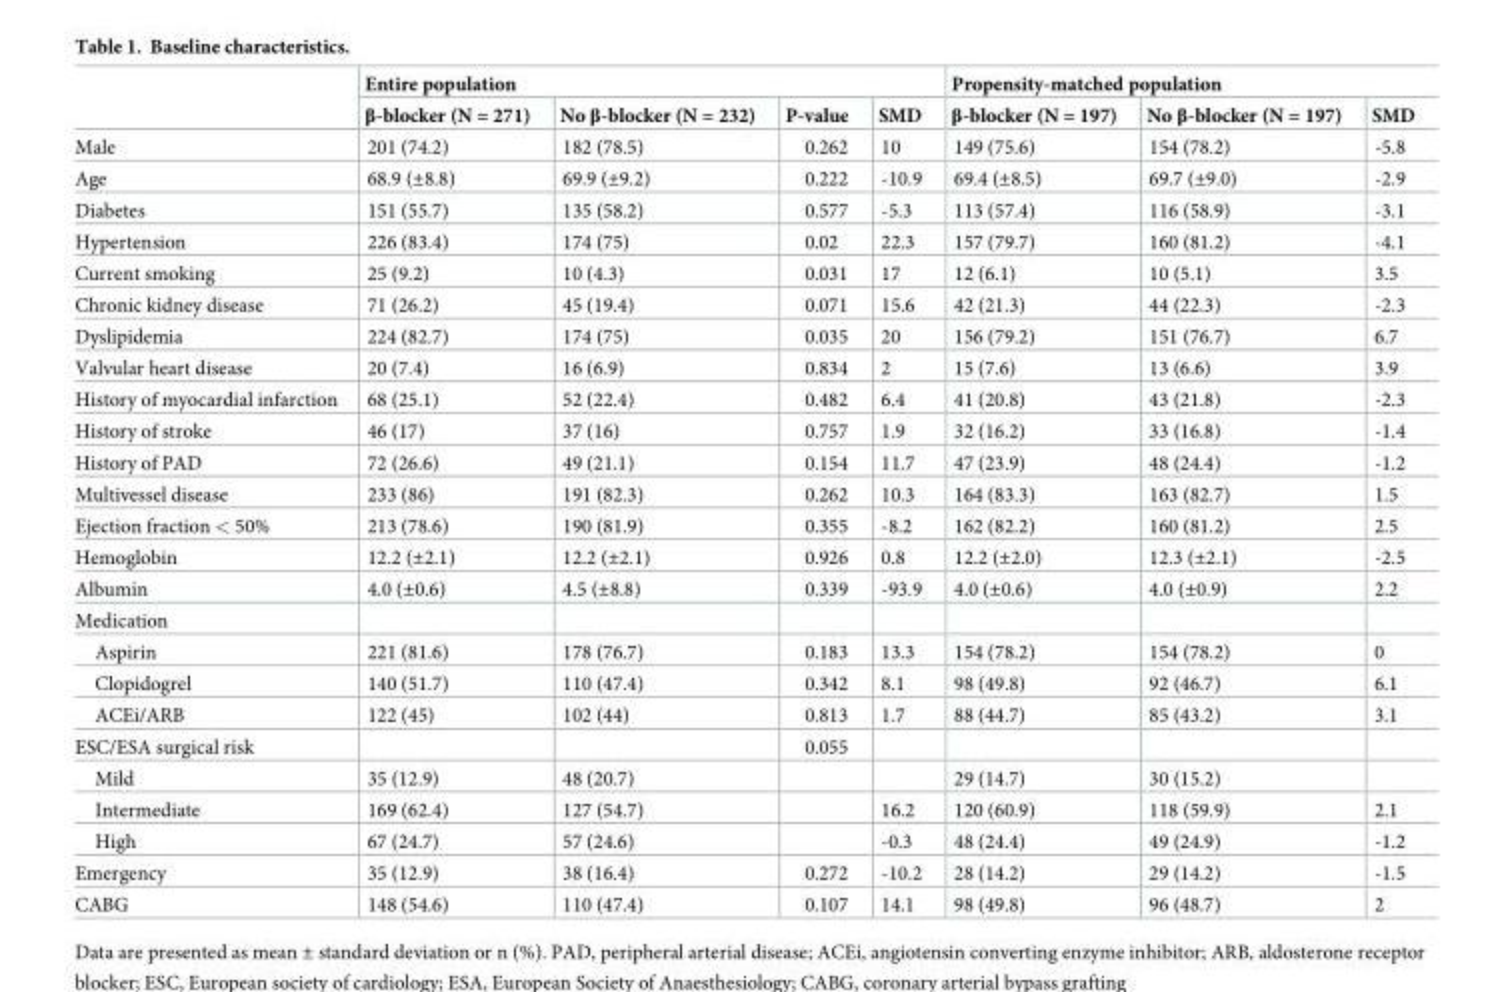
<table><thead><tr><td rowspan="2"></td><td colspan="4">Entire population</td><td colspan="3">Propensity-matched population</td></tr><tr><td>β-blocker (N = 271)</td><td>No β-blocker (N = 232)</td><td>P-value</td><td>SMD</td><td>β-blocker (N = 197)</td><td>No β-blocker (N = 197)</td><td>SMD</td></tr></thead><tbody><tr><td>Male</td><td>201 (74.2)</td><td>182 (78.5)</td><td>0.262</td><td>10</td><td>149 (75.6)</td><td>154 (78.2)</td><td>-5.8</td></tr><tr><td>Age</td><td>68.9 (±8.8)</td><td>69.9 (±9.2)</td><td>0.222</td><td>-10.9</td><td>69.4 (±8.5)</td><td>69.7 (±9.0)</td><td>-2.9</td></tr><tr><td>Diabetes</td><td>151 (55.7)</td><td>135 (58.2)</td><td>0.577</td><td>-5.3</td><td>113 (57.4)</td><td>116 (58.9)</td><td>-3.1</td></tr><tr><td>Hypertension</td><td>226 (83.4)</td><td>174 (75)</td><td>0.02</td><td>22.3</td><td>157 (79.7)</td><td>160 (81.2)</td><td>-4.1</td></tr><tr><td>Current smoking</td><td>25 (9.2)</td><td>10 (4.3)</td><td>0.031</td><td>17</td><td>12 (6.1)</td><td>10 (5.1)</td><td>3.5</td></tr><tr><td>Chronic kidney disease</td><td>71 (26.2)</td><td>45 (19.4)</td><td>0.071</td><td>15.6</td><td>42 (21.3)</td><td>44 (22.3)</td><td>-2.3</td></tr><tr><td>Dyslipidemia</td><td>224 (82.7)</td><td>174 (75)</td><td>0.035</td><td>20</td><td>156 (79.2)</td><td>151 (76.7)</td><td>6.7</td></tr><tr><td>Valvular heart disease</td><td>20 (7.4)</td><td>16 (6.9)</td><td>0.834</td><td>2</td><td>15 (7.6)</td><td>13 (6.6)</td><td>3.9</td></tr><tr><td>History of myocardial infarction</td><td>68 (25.1)</td><td>52 (22.4)</td><td>0.482</td><td>6.4</td><td>41 (20.8)</td><td>43 (21.8)</td><td>-2.3</td></tr><tr><td>History of stroke</td><td>46 (17)</td><td>37 (16)</td><td>0.757</td><td>1.9</td><td>32 (16.2)</td><td>33 (16.8)</td><td>-1.4</td></tr><tr><td>History of PAD</td><td>72 (26.6)</td><td>49 (21.1)</td><td>0.154</td><td>11.7</td><td>47 (23.9)</td><td>48 (24.4)</td><td>-1.2</td></tr><tr><td>Multivessel disease</td><td>233 (86)</td><td>191 (82.3)</td><td>0.262</td><td>10.3</td><td>164 (83.3)</td><td>163 (82.7)</td><td>1.5</td></tr><tr><td>Ejection fraction &lt; 50%</td><td>213 (78.6)</td><td>190 (81.9)</td><td>0.355</td><td>-8.2</td><td>162 (82.2)</td><td>160 (81.2)</td><td>2.5</td></tr><tr><td>Hemoglobin</td><td>12.2 (±2.1)</td><td>12.2 (±2.1)</td><td>0.926</td><td>0.8</td><td>12.2 (±2.0)</td><td>12.3 (±2.1)</td><td>-2.5</td></tr><tr><td>Albumin</td><td>4.0 (±0.6)</td><td>4.5 (±8.8)</td><td>0.339</td><td>-93.9</td><td>4.0 (±0.6)</td><td>4.0 (±0.9)</td><td>2.2</td></tr><tr><td colspan="8">Medication</td></tr><tr><td>Aspirin</td><td>221 (81.6)</td><td>178 (76.7)</td><td>0.183</td><td>13.3</td><td>154 (78.2)</td><td>154 (78.2)</td><td>0</td></tr><tr><td>Clopidogrel</td><td>140 (51.7)</td><td>110 (47.4)</td><td>0.342</td><td>8.1</td><td>98 (49.8)</td><td>92 (46.7)</td><td>6.1</td></tr><tr><td>ACEi/ARB</td><td>122 (45)</td><td>102 (44)</td><td>0.813</td><td>1.7</td><td>88 (44.7)</td><td>85 (43.2)</td><td>3.1</td></tr><tr><td>ESC/ESA surgical risk</td><td></td><td></td><td>0.055</td><td></td><td></td><td></td><td></td></tr><tr><td>Mild</td><td>35 (12.9)</td><td>48 (20.7)</td><td></td><td></td><td>29 (14.7)</td><td>30 (15.2)</td><td></td></tr><tr><td>Intermediate</td><td>169 (62.4)</td><td>127 (54.7)</td><td></td><td>16.2</td><td>120 (60.9)</td><td>118 (59.9)</td><td>2.1</td></tr><tr><td>High</td><td>67 (24.7)</td><td>57 (24.6)</td><td></td><td>-0.3</td><td>48 (24.4)</td><td>49 (24.9)</td><td>-1.2</td></tr><tr><td>Emergency</td><td>35 (12.9)</td><td>38 (16.4)</td><td>0.272</td><td>-10.2</td><td>28 (14.2)</td><td>29 (14.2)</td><td>-1.5</td></tr><tr><td>CABG</td><td>148 (54.6)</td><td>110 (47.4)</td><td>0.107</td><td>14.1</td><td>98 (49.8)</td><td>96 (48.7)</td><td>2</td></tr></tbody></table>